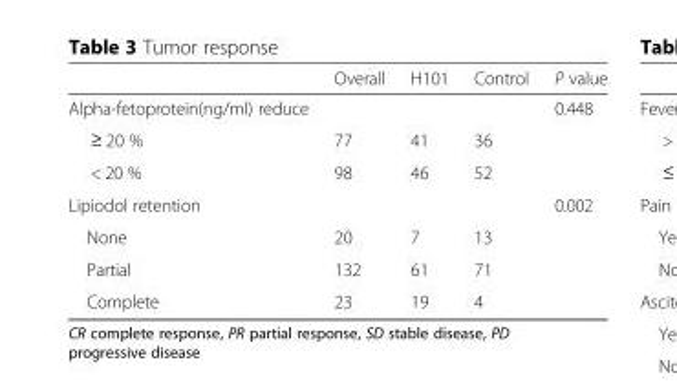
<table><thead><tr><td></td><td>Overall</td><td>H101</td><td>Control</td><td>P value</td></tr></thead><tbody><tr><td>Alpha-fetoprotein(ng/ml) reduce</td><td></td><td></td><td></td><td>0.448</td></tr><tr><td>≥ 20 %</td><td>77</td><td>41</td><td>36</td><td></td></tr><tr><td>&lt; 20 %</td><td>98</td><td>46</td><td>52</td><td></td></tr><tr><td>Lipiodol retention</td><td></td><td></td><td></td><td>0.002</td></tr><tr><td>None</td><td>20</td><td>7</td><td>13</td><td></td></tr><tr><td>Partial</td><td>132</td><td>61</td><td>71</td><td></td></tr><tr><td>Complete</td><td>23</td><td>19</td><td>4</td><td></td></tr></tbody></table>